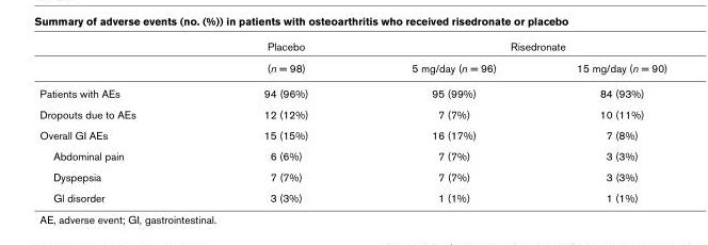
<table><thead><tr><td rowspan="2"></td><td rowspan="2">Placebo (n = 98)</td><td colspan="2">Risedronate</td></tr><tr><td>5 mg/day (n = 96)</td><td>15 mg/day (n = 90)</td></tr></thead><tbody><tr><td>Patients with AEs</td><td>94 (96%)</td><td>95 (99%)</td><td>84 (93%)</td></tr><tr><td>Dropouts due to AEs</td><td>12 (12%)</td><td>7 (7%)</td><td>10 (11%)</td></tr><tr><td>Overall GI AEs</td><td>15 (15%)</td><td>16 (17%)</td><td>7 (8%)</td></tr><tr><td>Abdominal pain</td><td>6 (6%)</td><td>7 (7%)</td><td>3 (3%)</td></tr><tr><td>Dyspepsia</td><td>7 (7%)</td><td>7 (7%)</td><td>3 (3%)</td></tr><tr><td>Gl disorder</td><td>3 (3%)</td><td>1 (1%)</td><td>1 (1%)</td></tr></tbody></table>